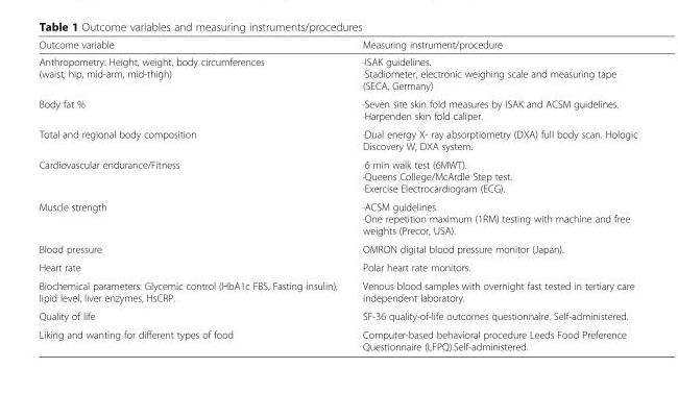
<table><thead><tr><td>Outcome variable</td><td>Measuring instrument/procedure</td></tr></thead><tbody><tr><td>Anthropometry: Height, weight, body circumferences (waist, hip, mid-arm, mid-thigh)</td><td>∙ISAK guidelines. ∙Stadiometer, electronic weighing scale and measuring tape (SECA, Germany)</td></tr><tr><td>Body fat %</td><td>∙Seven site skin fold measures by ISAK and ACSM guidelines. ∙Harpenden skin fold caliper.</td></tr><tr><td>Total and regional body composition</td><td>∙Dual energy X- ray absorptiometry (DXA) full body scan. Hologic Discovery W, DXA system.</td></tr><tr><td>Cardiovascular endurance/Fitness</td><td>∙6 min walk test (6MWT). ∙Queens College/McArdle Step test. ∙Exercise Electrocardiogram (ECG).</td></tr><tr><td>Muscle strength</td><td>∙ACSM guidelines. ∙One repetition maximum (1RM) testing with machine and free weights (Precor, USA).</td></tr><tr><td>Blood pressure</td><td>OMRON digital blood pressure monitor (Japan).</td></tr><tr><td>Heart rate</td><td>Polar heart rate monitors.</td></tr><tr><td>Biochemical parameters: Glycemic control (HbA1c FBS, Fasting insulin), lipid level, liver enzymes, HsCRP.</td><td>Venous blood samples with overnight fast tested in tertiary care independent laboratory.</td></tr><tr><td>Quality of life</td><td>SF-36 quality-of-life outcomes questionnaire. Self-administered.</td></tr><tr><td>Liking and wanting for different types of food</td><td>Computer-based behavioral procedure Leeds Food Preference Questionnaire (LFPQ).Self-administered.</td></tr></tbody></table>